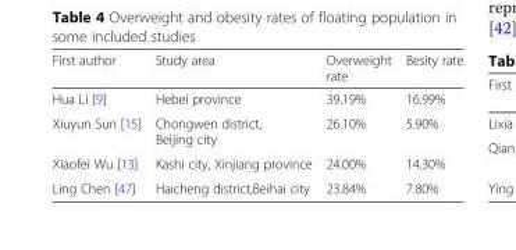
<table><thead><tr><td>First author</td><td>Study area</td><td>Overweight rate</td><td>Besity rate</td></tr></thead><tbody><tr><td>Hua Li [9]</td><td>Hebei province</td><td>39.19%</td><td>16.99%</td></tr><tr><td>Xiuyun Sun [15]</td><td>Chongwen district, Beijing city</td><td>26.10%</td><td>5.90%</td></tr><tr><td>Xiaofei Wu [13]</td><td>Kashi city, Xinjiang province</td><td>24.00%</td><td>14.30%</td></tr><tr><td>Ling Chen [47]</td><td>Haicheng district,Beihai city</td><td>23.84%</td><td>7.80%</td></tr></tbody></table>